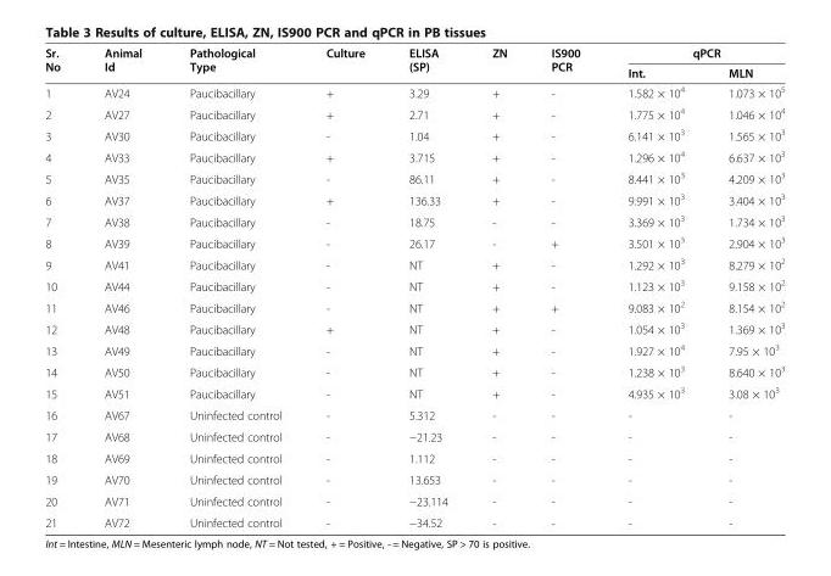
<table><thead><tr><td rowspan="2">Sr. No</td><td rowspan="2">Animal Id</td><td rowspan="2">Pathological Type</td><td rowspan="2">Culture</td><td rowspan="2">ELISA (SP)</td><td rowspan="2">ZN</td><td rowspan="2">IS900 PCR</td><td colspan="2">qPCR</td></tr><tr><td>Int.</td><td>MLN</td></tr></thead><tbody><tr><td>1</td><td>AV24</td><td>Paucibacillary</td><td>+</td><td>3.29</td><td>+</td><td>-</td><td>1.582 × 10<sup>4</sup></td><td>1.073 × 10<sup>5</sup></td></tr><tr><td>2</td><td>AV27</td><td>Paucibacillary</td><td>+</td><td>2.71</td><td>+</td><td>-</td><td>1.775 × 10<sup>4</sup></td><td>1.046 × 10<sup>4</sup></td></tr><tr><td>3</td><td>AV30</td><td>Paucibacillary</td><td>-</td><td>1.04</td><td>+</td><td>-</td><td>6.141 × 10<sup>3</sup></td><td>1.565 × 10<sup>3</sup></td></tr><tr><td>4</td><td>AV33</td><td>Paucibacillary</td><td>+</td><td>3.715</td><td>+</td><td>-</td><td>1.296 × 10<sup>4</sup></td><td>6.637 × 10<sup>3</sup></td></tr><tr><td>5</td><td>AV35</td><td>Paucibacillary</td><td>-</td><td>86.11</td><td>+</td><td>-</td><td>8.441 × 10<sup>3</sup></td><td>4.209 × 10<sup>3</sup></td></tr><tr><td>6</td><td>AV37</td><td>Paucibacillary</td><td>+</td><td>136.33</td><td>+</td><td>-</td><td>9.991 × 10<sup>3</sup></td><td>3.404 × 10<sup>3</sup></td></tr><tr><td>7</td><td>AV38</td><td>Paucibacillary</td><td>-</td><td>18.75</td><td>-</td><td>-</td><td>3.369 × 10<sup>3</sup></td><td>1.734 × 10<sup>3</sup></td></tr><tr><td>8</td><td>AV39</td><td>Paucibacillary</td><td>-</td><td>26.17</td><td>-</td><td>+</td><td>3.501 × 10<sup>3</sup></td><td>2.904 × 10<sup>3</sup></td></tr><tr><td>9</td><td>AV41</td><td>Paucibacillary</td><td>-</td><td>NT</td><td>+</td><td>-</td><td>1.292 × 10<sup>3</sup></td><td>8.279 × 10<sup>2</sup></td></tr><tr><td>10</td><td>AV44</td><td>Paucibacillary</td><td>-</td><td>NT</td><td>+</td><td>-</td><td>1.123 × 10<sup>3</sup></td><td>9.158 × 10<sup>2</sup></td></tr><tr><td>11</td><td>AV46</td><td>Paucibacillary</td><td>-</td><td>NT</td><td>+</td><td>+</td><td>9.083 × 10<sup>2</sup></td><td>8.154 × 10<sup>2</sup></td></tr><tr><td>12</td><td>AV48</td><td>Paucibacillary</td><td>+</td><td>NT</td><td>+</td><td>-</td><td>1.054 × 10<sup>3</sup></td><td>1.369 × 10<sup>3</sup></td></tr><tr><td>13</td><td>AV49</td><td>Paucibacillary</td><td>-</td><td>NT</td><td>+</td><td>-</td><td>1.927 × 10<sup>4</sup></td><td>7.95 × 10<sup>3</sup></td></tr><tr><td>14</td><td>AV50</td><td>Paucibacillary</td><td>-</td><td>NT</td><td>+</td><td>-</td><td>1.238 × 10<sup>3</sup></td><td>8.640 × 10<sup>3</sup></td></tr><tr><td>15</td><td>AV51</td><td>Paucibacillary</td><td>-</td><td>NT</td><td>+</td><td>-</td><td>4.935 × 10<sup>3</sup></td><td>3.08 × 10<sup>3</sup></td></tr><tr><td>16</td><td>AV67</td><td>Uninfected control</td><td>-</td><td>5.312</td><td>-</td><td>-</td><td>-</td><td>-</td></tr><tr><td>17</td><td>AV68</td><td>Uninfected control</td><td>-</td><td>−21.23</td><td>-</td><td>-</td><td>-</td><td>-</td></tr><tr><td>18</td><td>AV69</td><td>Uninfected control</td><td>-</td><td>1.112</td><td>-</td><td>-</td><td>-</td><td>-</td></tr><tr><td>19</td><td>AV70</td><td>Uninfected control</td><td>-</td><td>13.653</td><td>-</td><td>-</td><td>-</td><td>-</td></tr><tr><td>20</td><td>AV71</td><td>Uninfected control</td><td>-</td><td>−23.114</td><td>-</td><td>-</td><td>-</td><td>-</td></tr><tr><td>21</td><td>AV72</td><td>Uninfected control</td><td>-</td><td>−34.52</td><td>-</td><td>-</td><td>-</td><td>-</td></tr></tbody></table>